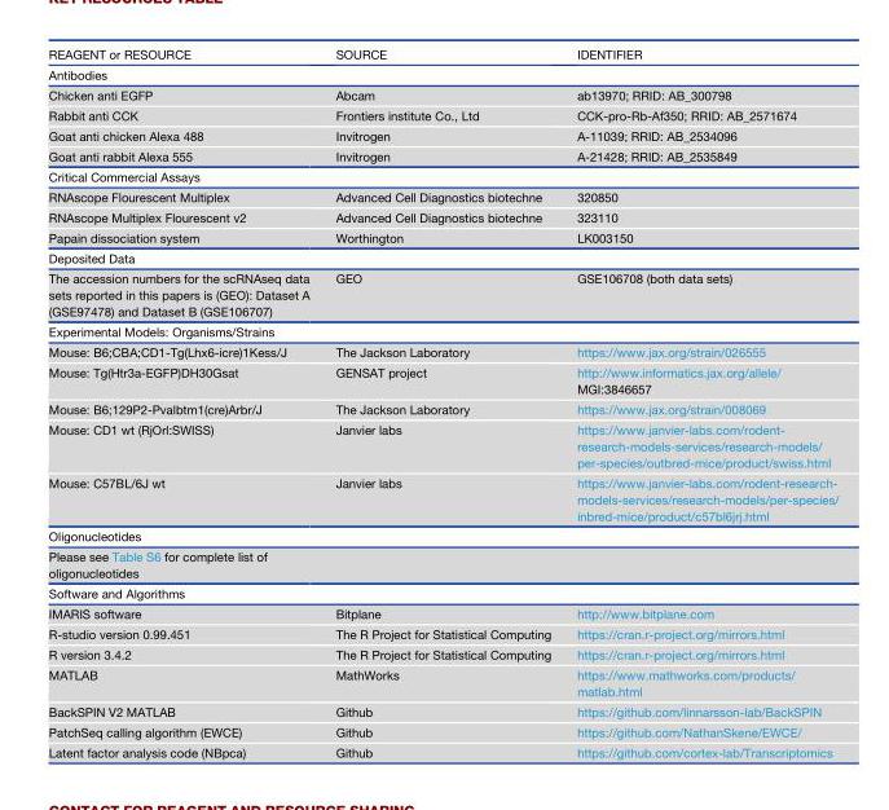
<table><thead><tr><td>REAGENT or RESOURCE</td><td>SOURCE</td><td>IDENTIFIER</td></tr></thead><tbody><tr><td colspan="3">Antibodies</td></tr><tr><td>Chicken anti EGFP</td><td>Abcam</td><td>ab13970; RRID: AB_300798</td></tr><tr><td>Rabbit anti CCK</td><td>Frontiers institute Co., Ltd</td><td>CCK-pro-Rb-Af350; RRID: AB_2571674</td></tr><tr><td>Goat anti chicken Alexa 488</td><td>Invitrogen</td><td>A-11039; RRID: AB_2534096</td></tr><tr><td>Goat anti rabbit Alexa 555</td><td>Invitrogen</td><td>A-21428; RRID: AB_2535849</td></tr><tr><td colspan="3">Critical Commercial Assays</td></tr><tr><td>RNAscope Flourescent Multiplex</td><td>Advanced Cell Diagnostics biotechne</td><td>320850</td></tr><tr><td>RNAscope Multiplex Flourescent v2</td><td>Advanced Cell Diagnostics biotechne</td><td>323110</td></tr><tr><td>Papain dissociation system</td><td>Worthington</td><td>LK003150</td></tr><tr><td colspan="3">Deposited Data</td></tr><tr><td>The accession numbers for the scRNAseq data sets reported in this papers is (GEO): Dataset A (GSE97478) and Dataset B (GSE106707)</td><td>GEO</td><td>GSE106708 (both data sets)</td></tr><tr><td colspan="3">Experimental Models: Organisms/Strains</td></tr><tr><td>Mouse: B6;CBA;CD1-Tg(Lhx6-icre)1Kess/J</td><td>The Jackson Laboratory</td><td>https://www.jax.org/strain/026555</td></tr><tr><td>Mouse: Tg(Htr3a-EGFP)DH30Gsat</td><td>GENSAT project</td><td>http://www.informatics.jax.org/allele/ MGI:3846657</td></tr><tr><td>Mouse: B6;129P2-Pvalbtm1(cre)Arbr/J</td><td>The Jackson Laboratory</td><td>https://www.jax.org/strain/008069</td></tr><tr><td>Mouse: CD1 wt (RjOrl:SWISS)</td><td>Janvier labs</td><td>https://www.janvier-labs.com/rodent- research-models-services/research-models/ per-species/outbred-mice/product/swiss.html</td></tr><tr><td>Mouse: C57BL/6J wt</td><td>Janvier labs</td><td>https://www.janvier-labs.com/rodent-research- models-services/research-models/per-species/ inbred-mice/product/c57bl6jrj.html</td></tr><tr><td colspan="3">Oligonucleotides</td></tr><tr><td colspan="3">Please see Table S6 for complete list of oligonucleotides</td></tr><tr><td colspan="3">Software and Algorithms</td></tr><tr><td>IMARIS software</td><td>Bitplane</td><td>http://www.bitplane.com</td></tr><tr><td>R-studio version 0.99.451</td><td>The R Project for Statistical Computing</td><td>https://cran.r-project.org/mirrors.html</td></tr><tr><td>R version 3.4.2</td><td>The R Project for Statistical Computing</td><td>https://cran.r-project.org/mirrors.html</td></tr><tr><td>MATLAB</td><td>MathWorks</td><td>https://www.mathworks.com/products/ matlab.html</td></tr><tr><td>BackSPIN V2 MATLAB</td><td>Github</td><td>https://github.com/linnarsson-lab/BackSPIN</td></tr><tr><td>PatchSeq calling algorithm (EWCE)</td><td>Github</td><td>https://github.com/NathanSkene/EWCE/</td></tr><tr><td>Latent factor analysis code (NBpca)</td><td>Github</td><td>https://github.com/cortex-lab/Transcriptomics</td></tr></tbody></table>